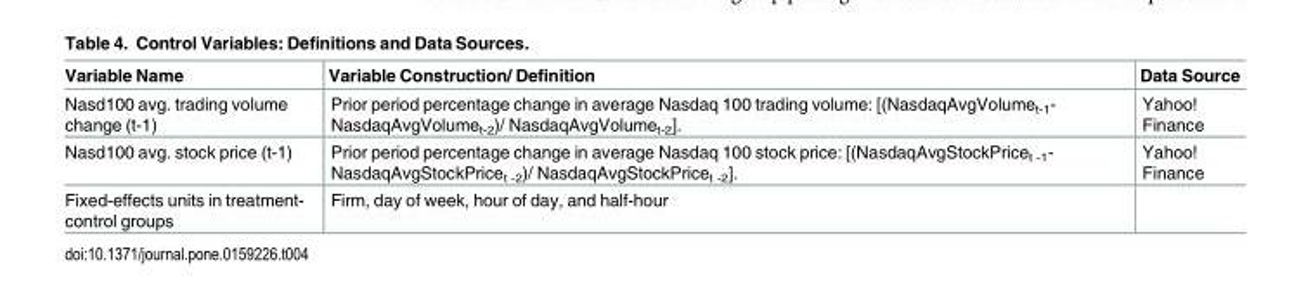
<table><thead><tr><td>Variable Name</td><td>Variable Construction/ Definition</td><td>Data Source</td></tr></thead><tbody><tr><td>Nasd100 avg. trading volume change (t-1)</td><td>Prior period percentage change in average Nasdaq 100 trading volume: [(NasdaqAvgVolume<sub>t-1</sub>- NasdaqAvgVolume<sub>t-2</sub>)/ NasdaqAvgVolume<sub>t-2</sub>].</td><td>Yahoo! Finance</td></tr><tr><td>Nasd100 avg. stock price (t-1)</td><td>Prior period percentage change in average Nasdaq 100 stock price: [(NasdaqAvgStockPrice<sub>t -1</sub>- NasdaqAvgStockPrice<sub>t -2</sub>)/ NasdaqAvgStockPrice<sub>t -2</sub>].</td><td>Yahoo! Finance</td></tr><tr><td>Fixed-effects units in treatment- control groups</td><td>Firm, day of week, hour of day, and half-hour</td><td></td></tr></tbody></table>